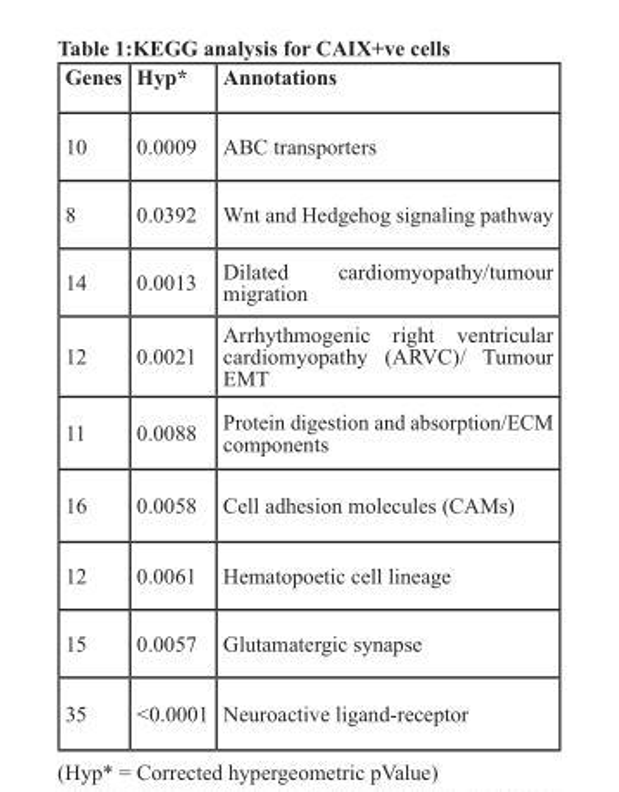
<table><thead><tr><td>Genes</td><td>Hyp*</td><td>Annotations</td></tr></thead><tbody><tr><td>10</td><td>0.0009</td><td>ABC transporters</td></tr><tr><td>8</td><td>0.0392</td><td>Wnt and Hedgehog signaling pathway</td></tr><tr><td>14</td><td>0.0013</td><td>Dilated cardiomyopathy/tumour migration</td></tr><tr><td>12</td><td>0.0021</td><td>Arrhythmogenic right ventricular cardiomyopathy (ARVC)/ Tumour EMT</td></tr><tr><td>11</td><td>0.0088</td><td>Protein digestion and absorption/ECM components</td></tr><tr><td>16</td><td>0.0058</td><td>Cell adhesion molecules (CAMs)</td></tr><tr><td>12</td><td>0.0061</td><td>Hematopoetic cell lineage</td></tr><tr><td>15</td><td>0.0057</td><td>Glutamatergic synapse</td></tr><tr><td>35</td><td>&lt;0.0001</td><td>Neuroactive ligand-receptor</td></tr></tbody></table>